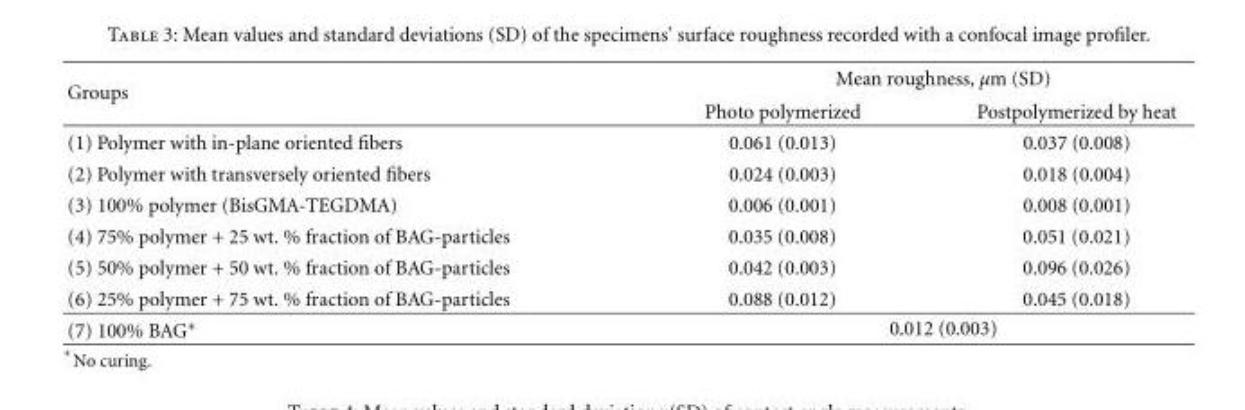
<table><thead><tr><td rowspan="2">Groups</td><td colspan="2">Mean roughness, μm (SD)</td></tr><tr><td>Photo polymerized</td><td>Postpolymerized by heat</td></tr></thead><tbody><tr><td>(1) Polymer with in-plane oriented fibers</td><td>0.061 (0.013)</td><td>0.037 (0.008)</td></tr><tr><td>(2) Polymer with transversely oriented fibers</td><td>0.024 (0.003)</td><td>0.018 (0.004)</td></tr><tr><td>(3) 100% polymer (BisGMA-TEGDMA)</td><td>0.006 (0.001)</td><td>0.008 (0.001)</td></tr><tr><td>(4) 75% polymer + 25 wt. % fraction of BAG-particles</td><td>0.035 (0.008)</td><td>0.051 (0.021)</td></tr><tr><td>(5) 50% polymer + 50 wt. % fraction of BAG-particles</td><td>0.042 (0.003)</td><td>0.096 (0.026)</td></tr><tr><td>(6) 25% polymer + 75 wt. % fraction of BAG-particles</td><td>0.088 (0.012)</td><td>0.045 (0.018)</td></tr><tr><td>(7) 100% BAG∗</td><td colspan="2">0.012 (0.003)</td></tr></tbody></table>